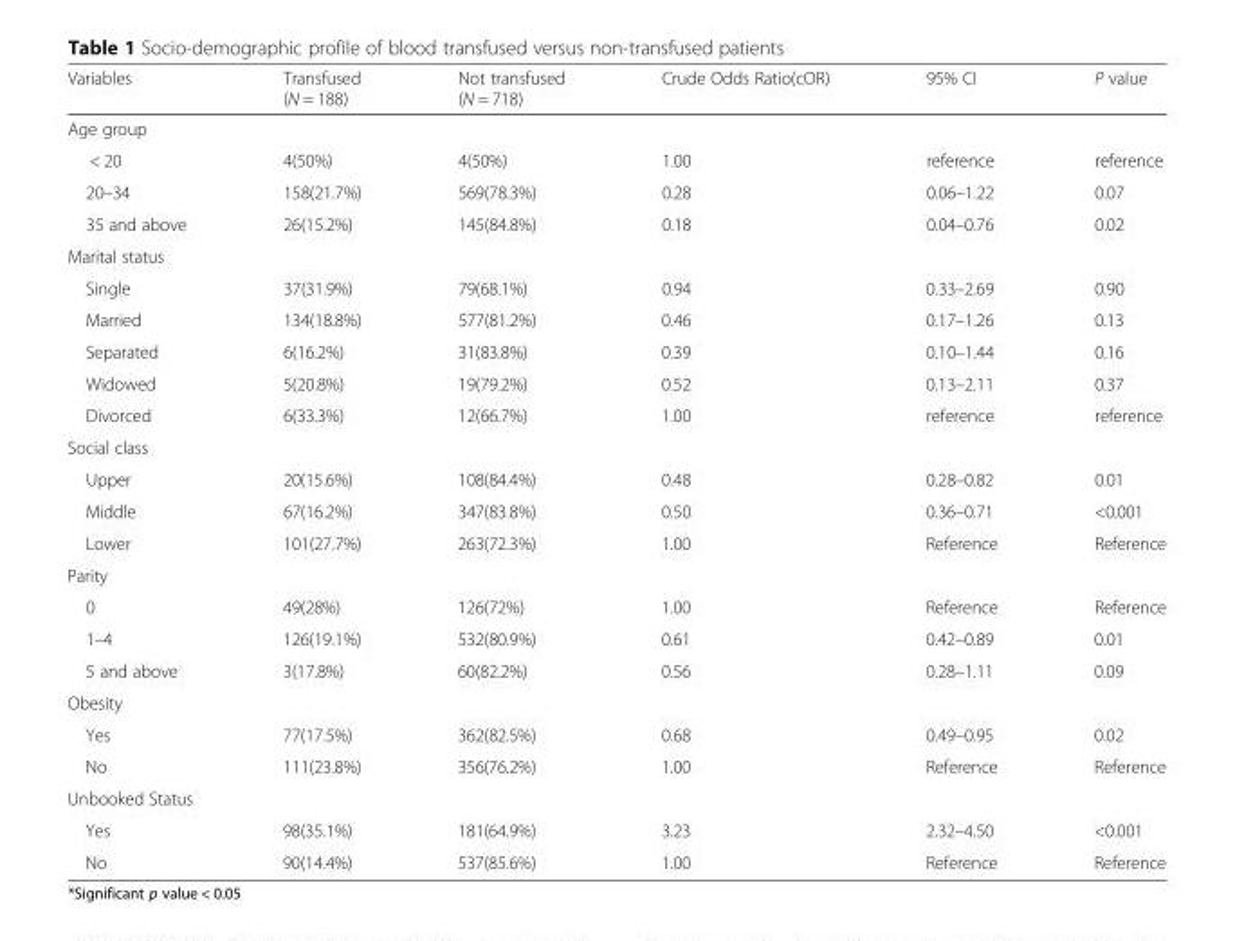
<table><thead><tr><td>Variables</td><td>Transfused (N = 188)</td><td>Not transfused (N = 718)</td><td>Crude Odds Ratio(cOR)</td><td>95% CI</td><td>P value</td></tr></thead><tbody><tr><td colspan="6">Age group</td></tr><tr><td>&lt; 20</td><td>4(50%)</td><td>4(50%)</td><td>1.00</td><td>reference</td><td>reference</td></tr><tr><td>20–34</td><td>158(21.7%)</td><td>569(78.3%)</td><td>0.28</td><td>0.06–1.22</td><td>0.07</td></tr><tr><td>35 and above</td><td>26(15.2%)</td><td>145(84.8%)</td><td>0.18</td><td>0.04–0.76</td><td>0.02</td></tr><tr><td colspan="6">Marital status</td></tr><tr><td>Single</td><td>37(31.9%)</td><td>79(68.1%)</td><td>0.94</td><td>0.33–2.69</td><td>0.90</td></tr><tr><td>Married</td><td>134(18.8%)</td><td>577(81.2%)</td><td>0.46</td><td>0.17–1.26</td><td>0.13</td></tr><tr><td>Separated</td><td>6(16.2%)</td><td>31(83.8%)</td><td>0.39</td><td>0.10–1.44</td><td>0.16</td></tr><tr><td>Widowed</td><td>5(20.8%)</td><td>19(79.2%)</td><td>0.52</td><td>0.13–2.11</td><td>0.37</td></tr><tr><td>Divorced</td><td>6(33.3%)</td><td>12(66.7%)</td><td>1.00</td><td>reference</td><td>reference</td></tr><tr><td colspan="6">Social class</td></tr><tr><td>Upper</td><td>20(15.6%)</td><td>108(84.4%)</td><td>0.48</td><td>0.28–0.82</td><td>0.01</td></tr><tr><td>Middle</td><td>67(16.2%)</td><td>347(83.8%)</td><td>0.50</td><td>0.36–0.71</td><td>&lt;0.001</td></tr><tr><td>Lower</td><td>101(27.7%)</td><td>263(72.3%)</td><td>1.00</td><td>Reference</td><td>Reference</td></tr><tr><td colspan="6">Parity</td></tr><tr><td>0</td><td>49(28%)</td><td>126(72%)</td><td>1.00</td><td>Reference</td><td>Reference</td></tr><tr><td>1–4</td><td>126(19.1%)</td><td>532(80.9%)</td><td>0.61</td><td>0.42–0.89</td><td>0.01</td></tr><tr><td>5 and above</td><td>3(17.8%)</td><td>60(82.2%)</td><td>0.56</td><td>0.28–1.11</td><td>0.09</td></tr><tr><td colspan="6">Obesity</td></tr><tr><td>Yes</td><td>77(17.5%)</td><td>362(82.5%)</td><td>0.68</td><td>0.49–0.95</td><td>0.02</td></tr><tr><td>No</td><td>111(23.8%)</td><td>356(76.2%)</td><td>1.00</td><td>Reference</td><td>Reference</td></tr><tr><td colspan="6">Unbooked Status</td></tr><tr><td>Yes</td><td>98(35.1%)</td><td>181(64.9%)</td><td>3.23</td><td>2.32–4.50</td><td>&lt;0.001</td></tr><tr><td>No</td><td>90(14.4%)</td><td>537(85.6%)</td><td>1.00</td><td>Reference</td><td>Reference</td></tr></tbody></table>